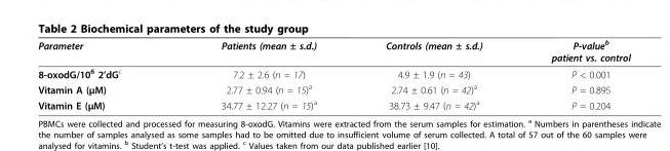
<table><thead><tr><td>Parameter</td><td>Patients (mean ± s.d.)</td><td>Controls (mean ± s.d.)</td><td>P-value<sup>b</sup> patient vs. control</td></tr></thead><tbody><tr><td>8-oxodG/10<sup>6</sup> 2’dG<sup>c</sup></td><td>7.2 ± 2.6 (n = 17)</td><td>4.9 ± 1.9 (n = 43)</td><td>P &lt; 0.001</td></tr><tr><td>Vitamin A (μM)</td><td>2.77 ± 0.94 (n = 15)<sup>a</sup></td><td>2.74 ± 0.61 (n = 42)<sup>a</sup></td><td>P = 0.895</td></tr><tr><td>Vitamin E (μM)</td><td>34.77 ± 12.27 (n = 15)<sup>a</sup></td><td>38.73 ± 9.47 (n = 42)<sup>a</sup></td><td>P = 0.204</td></tr></tbody></table>